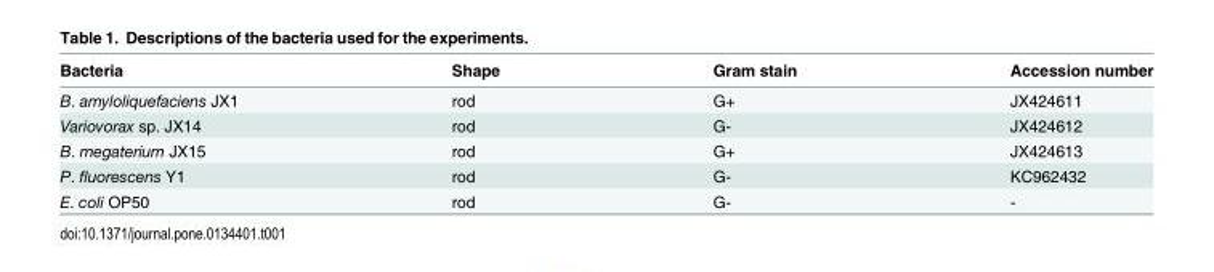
<table><thead><tr><td>Bacteria</td><td>Shape</td><td>Gram stain</td><td>Accession number</td></tr></thead><tbody><tr><td>B. amyloliquefaciens JX1</td><td>rod</td><td>G+</td><td>JX424611</td></tr><tr><td>Variovorax sp. JX14</td><td>rod</td><td>G-</td><td>JX424612</td></tr><tr><td>B. megaterium JX15</td><td>rod</td><td>G+</td><td>JX424613</td></tr><tr><td>P. fluorescens Y1</td><td>rod</td><td>G-</td><td>KC962432</td></tr><tr><td>E. coli OP50</td><td>rod</td><td>G-</td><td>-</td></tr></tbody></table>